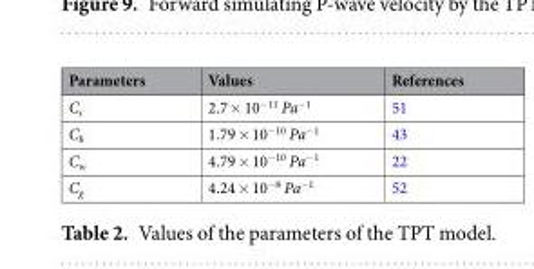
<table><thead><tr><td>Parameters</td><td>Values</td><td>References</td></tr></thead><tbody><tr><td>C<sub>s</sub></td><td>2.7 × 10<sup>−11</sup> Pa<sup>−1</sup></td><td>51</td></tr><tr><td>C<sub>h</sub></td><td>1.79 × 10<sup>−10</sup> Pa<sup>−1</sup></td><td>43</td></tr><tr><td>C<sub>w</sub></td><td>4.79 × 10<sup>−10</sup> Pa<sup>−1</sup></td><td>22</td></tr><tr><td>C<sub>g</sub></td><td>4.24 × 10<sup>−8</sup> Pa<sup>−1</sup></td><td>52</td></tr></tbody></table>